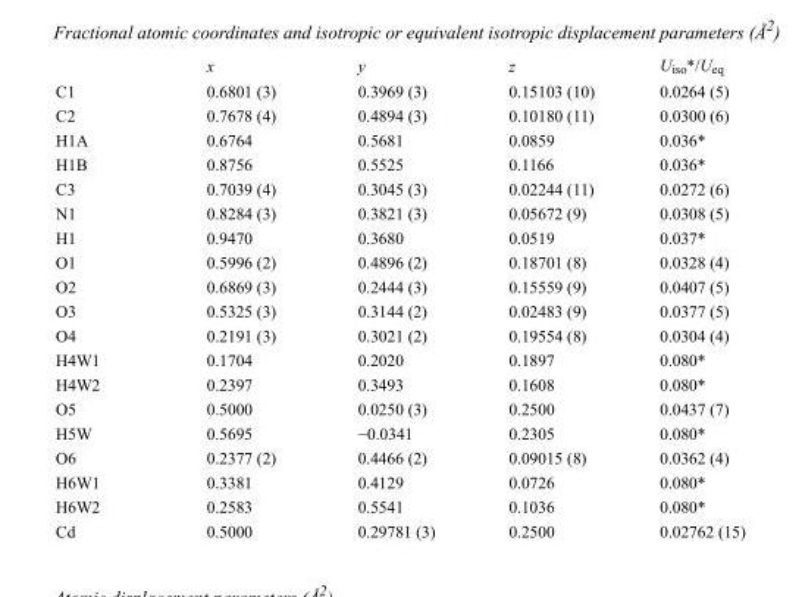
<table><thead><tr><td></td><td>x</td><td>y</td><td>z</td><td>U<sub>iso</sub>*/U<sub>eq</sub></td></tr></thead><tbody><tr><td>C1</td><td>0.6801 (3)</td><td>0.3969 (3)</td><td>0.15103 (10)</td><td>0.0264 (5)</td></tr><tr><td>C2</td><td>0.7678 (4)</td><td>0.4894 (3)</td><td>0.10180 (11)</td><td>0.0300 (6)</td></tr><tr><td>H1A</td><td>0.6764</td><td>0.5681</td><td>0.0859</td><td>0.036*</td></tr><tr><td>H1B</td><td>0.8756</td><td>0.5525</td><td>0.1166</td><td>0.036*</td></tr><tr><td>C3</td><td>0.7039 (4)</td><td>0.3045 (3)</td><td>0.02244 (11)</td><td>0.0272 (6)</td></tr><tr><td>N1</td><td>0.8284 (3)</td><td>0.3821 (3)</td><td>0.05672 (9)</td><td>0.0308 (5)</td></tr><tr><td>H1</td><td>0.9470</td><td>0.3680</td><td>0.0519</td><td>0.037*</td></tr><tr><td>O1</td><td>0.5996 (2)</td><td>0.4896 (2)</td><td>0.18701 (8)</td><td>0.0328 (4)</td></tr><tr><td>O2</td><td>0.6869 (3)</td><td>0.2444 (3)</td><td>0.15559 (9)</td><td>0.0407 (5)</td></tr><tr><td>O3</td><td>0.5325 (3)</td><td>0.3144 (2)</td><td>0.02483 (9)</td><td>0.0377 (5)</td></tr><tr><td>O4</td><td>0.2191 (3)</td><td>0.3021 (2)</td><td>0.19554 (8)</td><td>0.0304 (4)</td></tr><tr><td>H4W1</td><td>0.1704</td><td>0.2020</td><td>0.1897</td><td>0.080*</td></tr><tr><td>H4W2</td><td>0.2397</td><td>0.3493</td><td>0.1608</td><td>0.080*</td></tr><tr><td>O5</td><td>0.5000</td><td>0.0250 (3)</td><td>0.2500</td><td>0.0437 (7)</td></tr><tr><td>H5W</td><td>0.5695</td><td>−0.0341</td><td>0.2305</td><td>0.080*</td></tr><tr><td>O6</td><td>0.2377 (2)</td><td>0.4466 (2)</td><td>0.09015 (8)</td><td>0.0362 (4)</td></tr><tr><td>H6W1</td><td>0.3381</td><td>0.4129</td><td>0.0726</td><td>0.080*</td></tr><tr><td>H6W2</td><td>0.2583</td><td>0.5541</td><td>0.1036</td><td>0.080*</td></tr><tr><td>Cd</td><td>0.5000</td><td>0.29781 (3)</td><td>0.2500</td><td>0.02762 (15)</td></tr></tbody></table>